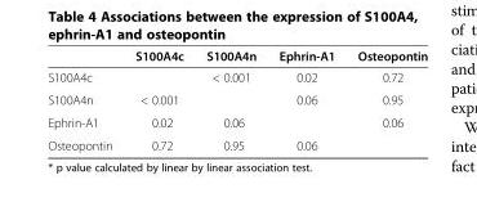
<table><thead><tr><td></td><td>S100A4c</td><td>S100A4n</td><td>Ephrin-A1</td><td>Osteopontin</td></tr></thead><tbody><tr><td>S100A4c</td><td></td><td>&lt; 0.001</td><td>0.02</td><td>0.72</td></tr><tr><td>S100A4n</td><td>&lt; 0.001</td><td></td><td>0.06</td><td>0.95</td></tr><tr><td>Ephrin-A1</td><td>0.02</td><td>0.06</td><td></td><td>0.06</td></tr><tr><td>Osteopontin</td><td>0.72</td><td>0.95</td><td>0.06</td><td></td></tr></tbody></table>